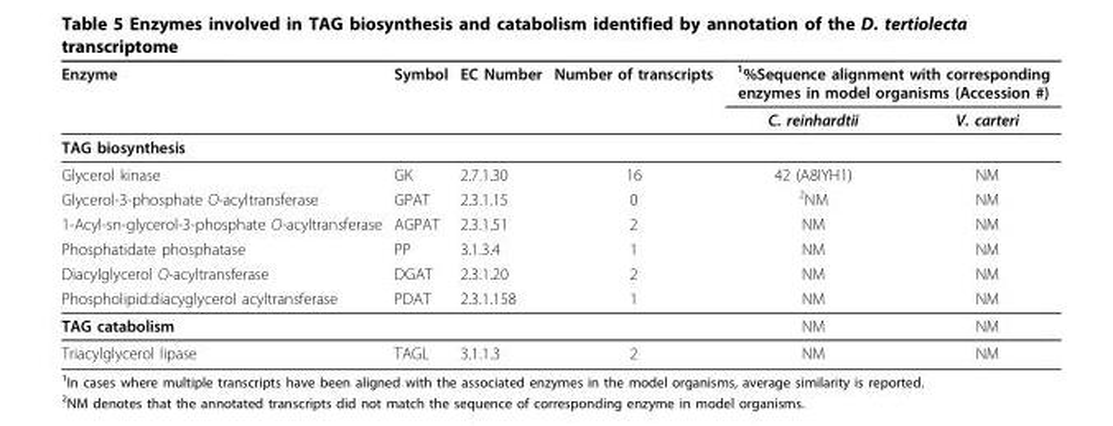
<table><thead><tr><td rowspan="2">Enzyme</td><td rowspan="2">Symbol</td><td rowspan="2">EC Number</td><td rowspan="2">Number of transcripts</td><td colspan="2"><sup>1</sup>%Sequence alignment with corresponding enzymes in model organisms (Accession #)</td></tr><tr><td>C. reinhardtii</td><td>V. carteri</td></tr></thead><tbody><tr><td colspan="6">TAG biosynthesis</td></tr><tr><td>Glycerol kinase</td><td>GK</td><td>2.7.1.30</td><td>16</td><td>42 (A8IYH1)</td><td>NM</td></tr><tr><td>Glycerol-3-phosphate O-acyltransferase</td><td>GPAT</td><td>2.3.1.15</td><td>0</td><td><sup>2</sup>NM</td><td>NM</td></tr><tr><td>1-Acyl-sn-glycerol-3-phosphate O-acyltransferase</td><td>AGPAT</td><td>2.3.1.51</td><td>2</td><td>NM</td><td>NM</td></tr><tr><td>Phosphatidate phosphatase</td><td>PP</td><td>3.1.3.4</td><td>1</td><td>NM</td><td>NM</td></tr><tr><td>Diacylglycerol O-acyltransferase</td><td>DGAT</td><td>2.3.1.20</td><td>2</td><td>NM</td><td>NM</td></tr><tr><td>Phospholipid:diacyglycerol acyltransferase</td><td>PDAT</td><td>2.3.1.158</td><td>1</td><td>NM</td><td>NM</td></tr><tr><td>TAG catabolism</td><td></td><td></td><td></td><td>NM</td><td>NM</td></tr><tr><td>Triacylglycerol lipase</td><td>TAGL</td><td>3.1.1.3</td><td>2</td><td>NM</td><td>NM</td></tr></tbody></table>